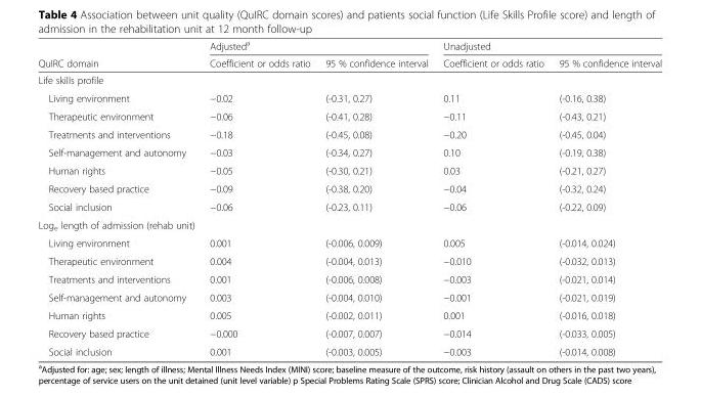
<table><thead><tr><td rowspan="2">QuIRC domain</td><td colspan="2">Adjusted<sup>a</sup></td><td colspan="2">Unadjusted</td></tr><tr><td>Coefficient or odds ratio</td><td>95 % confidence interval</td><td>Coefficient or odds ratio</td><td>95 % confidence interval</td></tr></thead><tbody><tr><td colspan="5">Life skills profile</td></tr><tr><td>Living environment</td><td>−0.02</td><td>(-0.31, 0.27)</td><td>0.11</td><td>(-0.16, 0.38)</td></tr><tr><td>Therapeutic environment</td><td>−0.06</td><td>(-0.41, 0.28)</td><td>−0.11</td><td>(-0.43, 0.21)</td></tr><tr><td>Treatments and interventions</td><td>−0.18</td><td>(-0.45, 0.08)</td><td>−0.20</td><td>(-0.45, 0.04)</td></tr><tr><td>Self-management and autonomy</td><td>−0.03</td><td>(-0.34, 0.27)</td><td>0.10</td><td>(-0.19, 0.38)</td></tr><tr><td>Human rights</td><td>−0.05</td><td>(-0.30, 0.21)</td><td>0.03</td><td>(-0.21, 0.27)</td></tr><tr><td>Recovery based practice</td><td>−0.09</td><td>(-0.38, 0.20)</td><td>−0.04</td><td>(-0.32, 0.24)</td></tr><tr><td>Social inclusion</td><td>−0.06</td><td>(-0.23, 0.11)</td><td>−0.06</td><td>(-0.22, 0.09)</td></tr><tr><td colspan="5">Log<sub>e</sub> length of admission (rehab unit)</td></tr><tr><td>Living environment</td><td>0.001</td><td>(-0.006, 0.009)</td><td>0.005</td><td>(-0.014, 0.024)</td></tr><tr><td>Therapeutic environment</td><td>0.004</td><td>(-0.004, 0.013)</td><td>−0.010</td><td>(-0.032, 0.013)</td></tr><tr><td>Treatments and interventions</td><td>0.001</td><td>(-0.006, 0.008)</td><td>−0.003</td><td>(-0.021, 0.014)</td></tr><tr><td>Self-management and autonomy</td><td>0.003</td><td>(-0.004, 0.010)</td><td>−0.001</td><td>(-0.021, 0.019)</td></tr><tr><td>Human rights</td><td>0.005</td><td>(-0.002, 0.011)</td><td>0.001</td><td>(-0.016, 0.018)</td></tr><tr><td>Recovery based practice</td><td>−0.000</td><td>(-0.007, 0.007)</td><td>−0.014</td><td>(-0.033, 0.005)</td></tr><tr><td>Social inclusion</td><td>0.001</td><td>(-0.003, 0.005)</td><td>−0.003</td><td>(-0.014, 0.008)</td></tr></tbody></table>